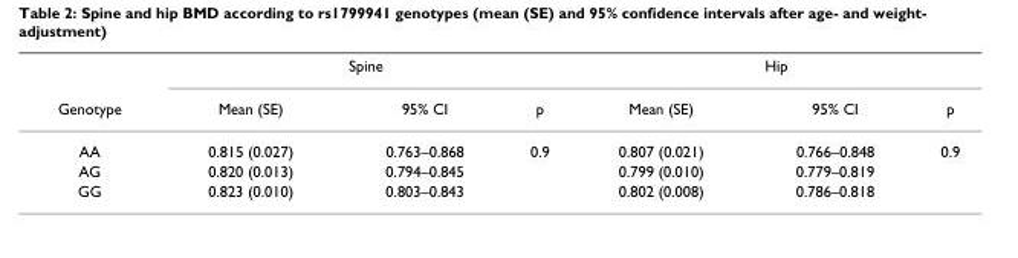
<table><thead><tr><td rowspan="2">Genotype</td><td colspan="3">Spine</td><td colspan="3">Hip</td></tr><tr><td>Mean (SE)</td><td>95% CI</td><td>p</td><td>Mean (SE)</td><td>95% CI</td><td>p</td></tr></thead><tbody><tr><td>AA</td><td>0.815 (0.027)</td><td>0.763–0.868</td><td>0.9</td><td>0.807 (0.021)</td><td>0.766–0.848</td><td>0.9</td></tr><tr><td>AG</td><td>0.820 (0.013)</td><td>0.794–0.845</td><td></td><td>0.799 (0.010)</td><td>0.779–0.819</td><td></td></tr><tr><td>GG</td><td>0.823 (0.010)</td><td>0.803–0.843</td><td></td><td>0.802 (0.008)</td><td>0.786–0.818</td><td></td></tr></tbody></table>